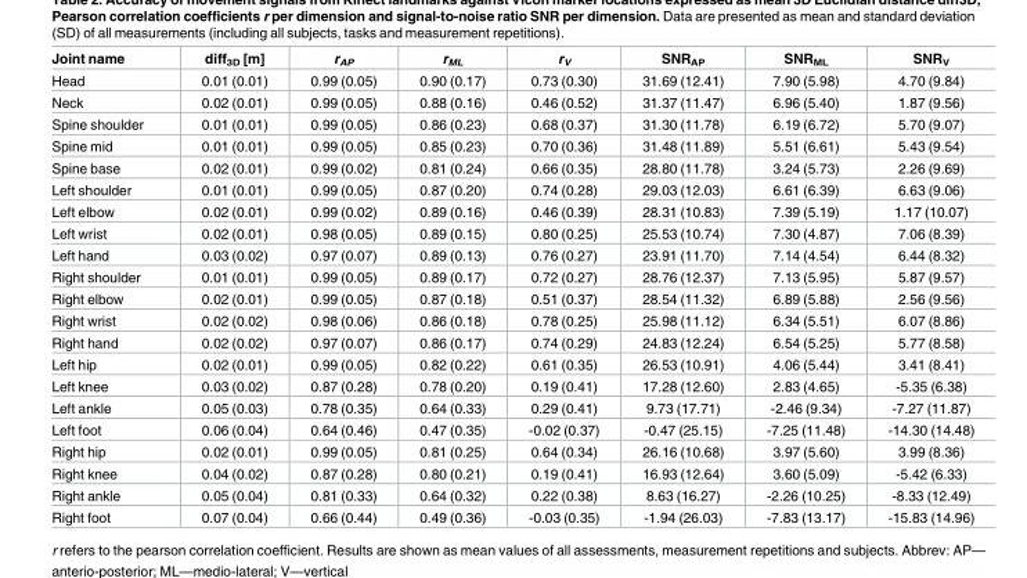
<table><thead><tr><td>Joint name</td><td>diff<sub>3D</sub> [m]</td><td>r<sub>AP</sub></td><td>r<sub>ML</sub></td><td>r<sub>V</sub></td><td>SNR<sub>AP</sub></td><td>SNR<sub>ML</sub></td><td>SNR<sub>V</sub></td></tr></thead><tbody><tr><td>Head</td><td>0.01 (0.01)</td><td>0.99 (0.05)</td><td>0.90 (0.17)</td><td>0.73 (0.30)</td><td>31.69 (12.41)</td><td>7.90 (5.98)</td><td>4.70 (9.84)</td></tr><tr><td>Neck</td><td>0.02 (0.01)</td><td>0.99 (0.05)</td><td>0.88 (0.16)</td><td>0.46 (0.52)</td><td>31.37 (11.47)</td><td>6.96 (5.40)</td><td>1.87 (9.56)</td></tr><tr><td>Spine shoulder</td><td>0.01 (0.01)</td><td>0.99 (0.05)</td><td>0.86 (0.23)</td><td>0.68 (0.37)</td><td>31.30 (11.78)</td><td>6.19 (6.72)</td><td>5.70 (9.07)</td></tr><tr><td>Spine mid</td><td>0.01 (0.01)</td><td>0.99 (0.05)</td><td>0.85 (0.23)</td><td>0.70 (0.36)</td><td>31.48 (11.89)</td><td>5.51 (6.61)</td><td>5.43 (9.54)</td></tr><tr><td>Spine base</td><td>0.02 (0.01)</td><td>0.99 (0.02)</td><td>0.81 (0.24)</td><td>0.66 (0.35)</td><td>28.80 (11.78)</td><td>3.24 (5.73)</td><td>2.26 (9.69)</td></tr><tr><td>Left shoulder</td><td>0.01 (0.01)</td><td>0.99 (0.05)</td><td>0.87 (0.20)</td><td>0.74 (0.28)</td><td>29.03 (12.03)</td><td>6.61 (6.39)</td><td>6.63 (9.06)</td></tr><tr><td>Left elbow</td><td>0.02 (0.01)</td><td>0.99 (0.02)</td><td>0.89 (0.16)</td><td>0.46 (0.39)</td><td>28.31 (10.83)</td><td>7.39 (5.19)</td><td>1.17 (10.07)</td></tr><tr><td>Left wrist</td><td>0.02 (0.01)</td><td>0.98 (0.05)</td><td>0.89 (0.15)</td><td>0.80 (0.25)</td><td>25.53 (10.74)</td><td>7.30 (4.87)</td><td>7.06 (8.39)</td></tr><tr><td>Left hand</td><td>0.03 (0.02)</td><td>0.97 (0.07)</td><td>0.89 (0.13)</td><td>0.76 (0.27)</td><td>23.91 (11.70)</td><td>7.14 (4.54)</td><td>6.44 (8.32)</td></tr><tr><td>Right shoulder</td><td>0.01 (0.01)</td><td>0.99 (0.05)</td><td>0.89 (0.17)</td><td>0.72 (0.27)</td><td>28.76 (12.37)</td><td>7.13 (5.95)</td><td>5.87 (9.57)</td></tr><tr><td>Right elbow</td><td>0.02 (0.01)</td><td>0.99 (0.05)</td><td>0.87 (0.18)</td><td>0.51 (0.37)</td><td>28.54 (11.32)</td><td>6.89 (5.88)</td><td>2.56 (9.56)</td></tr><tr><td>Right wrist</td><td>0.02 (0.02)</td><td>0.98 (0.06)</td><td>0.86 (0.18)</td><td>0.78 (0.25)</td><td>25.98 (11.12)</td><td>6.34 (5.51)</td><td>6.07 (8.86)</td></tr><tr><td>Right hand</td><td>0.02 (0.02)</td><td>0.97 (0.07)</td><td>0.86 (0.17)</td><td>0.74 (0.29)</td><td>24.83 (12.24)</td><td>6.54 (5.25)</td><td>5.77 (8.58)</td></tr><tr><td>Left hip</td><td>0.02 (0.01)</td><td>0.99 (0.05)</td><td>0.82 (0.22)</td><td>0.61 (0.35)</td><td>26.53 (10.91)</td><td>4.06 (5.44)</td><td>3.41 (8.41)</td></tr><tr><td>Left knee</td><td>0.03 (0.02)</td><td>0.87 (0.28)</td><td>0.78 (0.20)</td><td>0.19 (0.41)</td><td>17.28 (12.60)</td><td>2.83 (4.65)</td><td>-5.35 (6.38)</td></tr><tr><td>Left ankle</td><td>0.05 (0.03)</td><td>0.78 (0.35)</td><td>0.64 (0.33)</td><td>0.29 (0.41)</td><td>9.73 (17.71)</td><td>-2.46 (9.34)</td><td>-7.27 (11.87)</td></tr><tr><td>Left foot</td><td>0.06 (0.04)</td><td>0.64 (0.46)</td><td>0.47 (0.35)</td><td>-0.02 (0.37)</td><td>-0.47 (25.15)</td><td>-7.25 (11.48)</td><td>-14.30 (14.48)</td></tr><tr><td>Right hip</td><td>0.02 (0.01)</td><td>0.99 (0.05)</td><td>0.81 (0.25)</td><td>0.64 (0.34)</td><td>26.16 (10.68)</td><td>3.97 (5.60)</td><td>3.99 (8.36)</td></tr><tr><td>Right knee</td><td>0.04 (0.02)</td><td>0.87 (0.28)</td><td>0.80 (0.21)</td><td>0.19 (0.41)</td><td>16.93 (12.64)</td><td>3.60 (5.09)</td><td>-5.42 (6.33)</td></tr><tr><td>Right ankle</td><td>0.05 (0.04)</td><td>0.81 (0.33)</td><td>0.64 (0.32)</td><td>0.22 (0.38)</td><td>8.63 (16.27)</td><td>-2.26 (10.25)</td><td>-8.33 (12.49)</td></tr><tr><td>Right foot</td><td>0.07 (0.04)</td><td>0.66 (0.44)</td><td>0.49 (0.36)</td><td>-0.03 (0.35)</td><td>-1.94 (26.03)</td><td>-7.83 (13.17)</td><td>-15.83 (14.96)</td></tr></tbody></table>